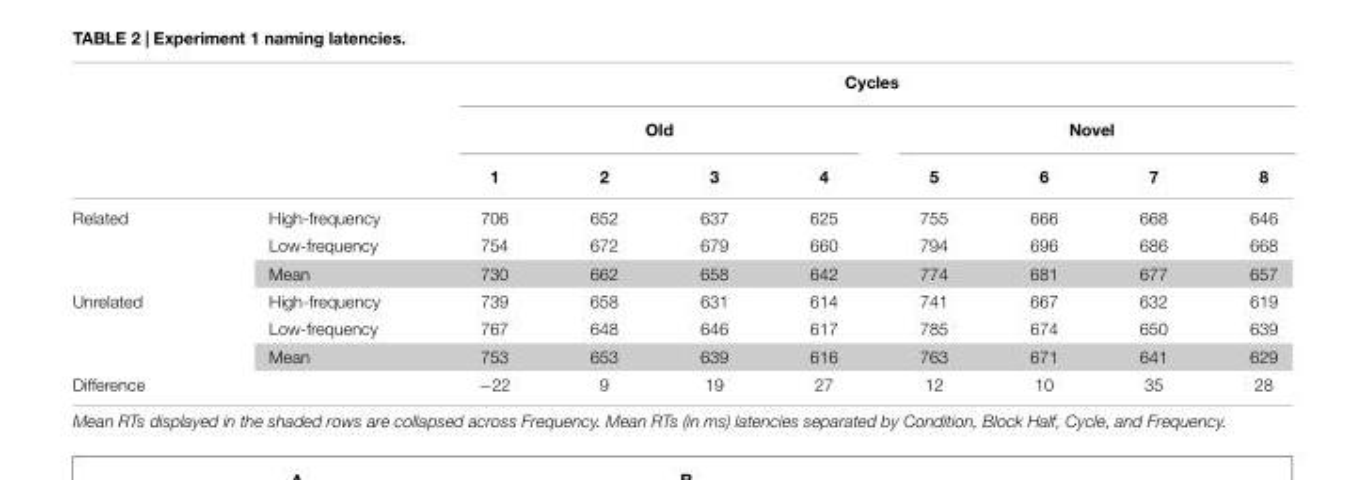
<table><thead><tr><td rowspan="3"></td><td rowspan="3"></td><td colspan="8">Cycles</td></tr><tr><td colspan="4">Old</td><td colspan="4">Novel</td></tr><tr><td>1</td><td>2</td><td>3</td><td>4</td><td>5</td><td>6</td><td>7</td><td>8</td></tr></thead><tbody><tr><td rowspan="3">Related</td><td>High-frequency</td><td>706</td><td>652</td><td>637</td><td>625</td><td>755</td><td>666</td><td>668</td><td>646</td></tr><tr><td>Low-frequency</td><td>754</td><td>672</td><td>679</td><td>660</td><td>794</td><td>696</td><td>686</td><td>668</td></tr><tr><td>Mean</td><td>730</td><td>662</td><td>658</td><td>642</td><td>774</td><td>681</td><td>677</td><td>657</td></tr><tr><td rowspan="3">Unrelated</td><td>High-frequency</td><td>739</td><td>658</td><td>631</td><td>614</td><td>741</td><td>667</td><td>632</td><td>619</td></tr><tr><td>Low-frequency</td><td>767</td><td>648</td><td>646</td><td>617</td><td>785</td><td>674</td><td>650</td><td>639</td></tr><tr><td>Mean</td><td>753</td><td>653</td><td>639</td><td>616</td><td>763</td><td>671</td><td>641</td><td>629</td></tr><tr><td>Difference</td><td></td><td>−22</td><td>9</td><td>19</td><td>27</td><td>12</td><td>10</td><td>35</td><td>28</td></tr></tbody></table>